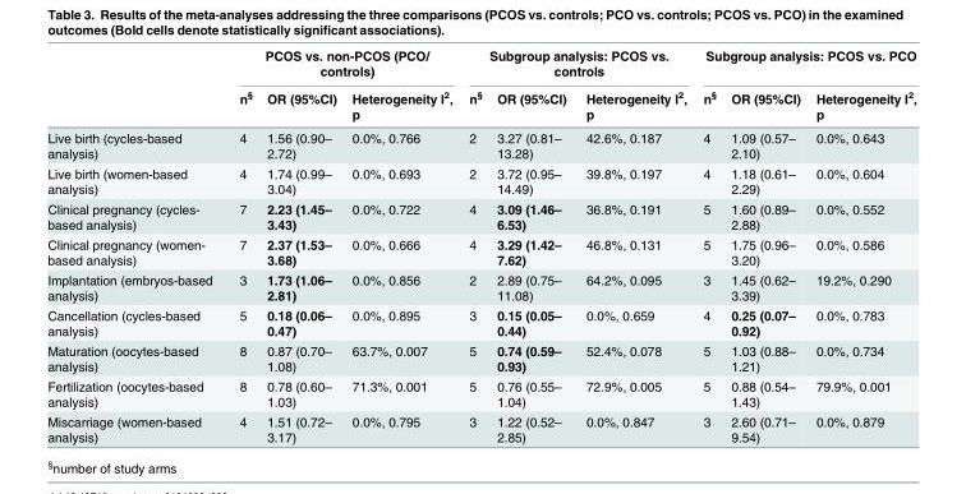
<table><thead><tr><td rowspan="2"></td><td colspan="3">PCOS vs. non-PCOS (PCO/ controls)</td><td colspan="3">Subgroup analysis: PCOS vs. controls</td><td colspan="3">Subgroup analysis: PCOS vs. PCO</td></tr><tr><td>n<sup>§</sup></td><td>OR (95%CI)</td><td>Heterogeneity I<sup>2</sup>, p</td><td>n<sup>§</sup></td><td>OR (95%CI)</td><td>Heterogeneity I<sup>2</sup>, p</td><td>n<sup>§</sup></td><td>OR (95%CI)</td><td>Heterogeneity I<sup>2</sup>, p</td></tr></thead><tbody><tr><td>Live birth (cycles-based analysis)</td><td>4</td><td>1.56 (0.90– 2.72)</td><td>0.0%, 0.766</td><td>2</td><td>3.27 (0.81– 13.28)</td><td>42.6%, 0.187</td><td>4</td><td>1.09 (0.57– 2.10)</td><td>0.0%, 0.643</td></tr><tr><td>Live birth (women-based analysis)</td><td>4</td><td>1.74 (0.99– 3.04)</td><td>0.0%, 0.693</td><td>2</td><td>3.72 (0.95– 14.49)</td><td>39.8%, 0.197</td><td>4</td><td>1.18 (0.61– 2.29)</td><td>0.0%, 0.604</td></tr><tr><td>Clinical pregnancy (cycles- based analysis)</td><td>7</td><td>2.23 (1.45– 3.43)</td><td>0.0%, 0.722</td><td>4</td><td>3.09 (1.46– 6.53)</td><td>36.8%, 0.191</td><td>5</td><td>1.60 (0.89– 2.88)</td><td>0.0%, 0.552</td></tr><tr><td>Clinical pregnancy (women- based analysis)</td><td>7</td><td>2.37 (1.53– 3.68)</td><td>0.0%, 0.666</td><td>4</td><td>3.29 (1.42– 7.62)</td><td>46.8%, 0.131</td><td>5</td><td>1.75 (0.96– 3.20)</td><td>0.0%, 0.586</td></tr><tr><td>Implantation (embryos-based analysis)</td><td>3</td><td>1.73 (1.06– 2.81)</td><td>0.0%, 0.856</td><td>2</td><td>2.89 (0.75– 11.08)</td><td>64.2%, 0.095</td><td>3</td><td>1.45 (0.62– 3.39)</td><td>19.2%, 0.290</td></tr><tr><td>Cancellation (cycles-based analysis)</td><td>5</td><td>0.18 (0.06– 0.47)</td><td>0.0%, 0.895</td><td>3</td><td>0.15 (0.05– 0.44)</td><td>0.0%, 0.659</td><td>4</td><td>0.25 (0.07– 0.92)</td><td>0.0%, 0.783</td></tr><tr><td>Maturation (oocytes-based analysis)</td><td>8</td><td>0.87 (0.70– 1.08)</td><td>63.7%, 0.007</td><td>5</td><td>0.74 (0.59– 0.93)</td><td>52.4%, 0.078</td><td>5</td><td>1.03 (0.88– 1.21)</td><td>0.0%, 0.734</td></tr><tr><td>Fertilization (oocytes-based analysis)</td><td>8</td><td>0.78 (0.60– 1.03)</td><td>71.3%, 0.001</td><td>5</td><td>0.76 (0.55– 1.04)</td><td>72.9%, 0.005</td><td>5</td><td>0.88 (0.54– 1.43)</td><td>79.9%, 0.001</td></tr><tr><td>Miscarriage (women-based analysis)</td><td>4</td><td>1.51 (0.72– 3.17)</td><td>0.0%, 0.795</td><td>3</td><td>1.22 (0.52– 2.85)</td><td>0.0%, 0.847</td><td>3</td><td>2.60 (0.71– 9.54)</td><td>0.0%, 0.879</td></tr></tbody></table>